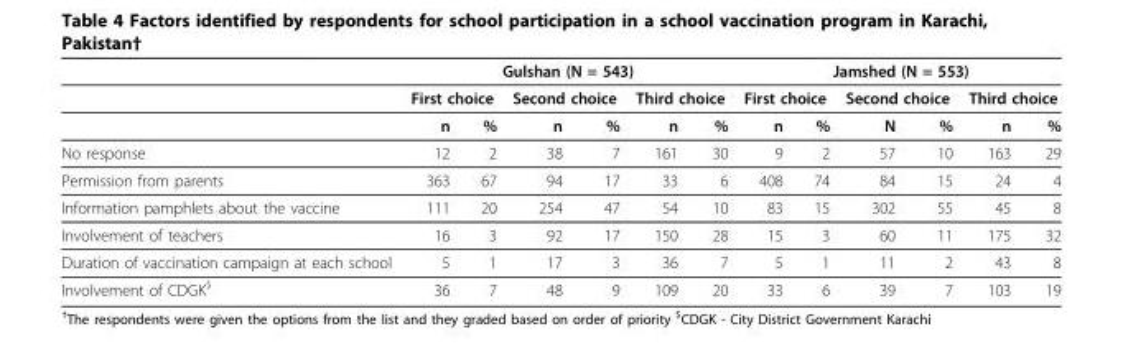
<table><thead><tr><td rowspan="3"></td><td colspan="6">Gulshan (N = 543)</td><td colspan="6">Jamshed (N = 553)</td></tr><tr><td colspan="2">First choice</td><td colspan="2">Second choice</td><td colspan="2">Third choice</td><td colspan="2">First choice</td><td colspan="2">Second choice</td><td colspan="2">Third choice</td></tr><tr><td>n</td><td>%</td><td>n</td><td>%</td><td>n</td><td>%</td><td>n</td><td>%</td><td>N</td><td>%</td><td>n</td><td>%</td></tr></thead><tbody><tr><td>No response</td><td>12</td><td>2</td><td>38</td><td>7</td><td>161</td><td>30</td><td>9</td><td>2</td><td>57</td><td>10</td><td>163</td><td>29</td></tr><tr><td>Permission from parents</td><td>363</td><td>67</td><td>94</td><td>17</td><td>33</td><td>6</td><td>408</td><td>74</td><td>84</td><td>15</td><td>24</td><td>4</td></tr><tr><td>Information pamphlets about the vaccine</td><td>111</td><td>20</td><td>254</td><td>47</td><td>54</td><td>10</td><td>83</td><td>15</td><td>302</td><td>55</td><td>45</td><td>8</td></tr><tr><td>Involvement of teachers</td><td>16</td><td>3</td><td>92</td><td>17</td><td>150</td><td>28</td><td>15</td><td>3</td><td>60</td><td>11</td><td>175</td><td>32</td></tr><tr><td>Duration of vaccination campaign at each school</td><td>5</td><td>1</td><td>17</td><td>3</td><td>36</td><td>7</td><td>5</td><td>1</td><td>11</td><td>2</td><td>43</td><td>8</td></tr><tr><td>Involvement of CDGK<sup>$</sup></td><td>36</td><td>7</td><td>48</td><td>9</td><td>109</td><td>20</td><td>33</td><td>6</td><td>39</td><td>7</td><td>103</td><td>19</td></tr></tbody></table>